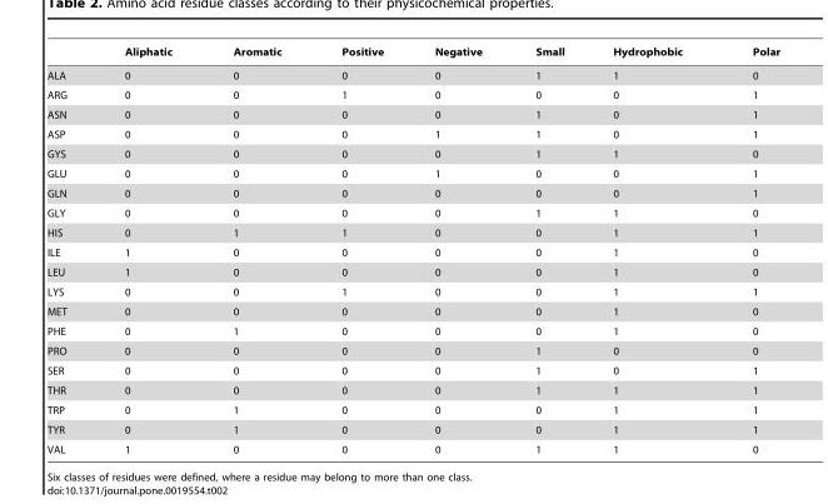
<table><thead><tr><td></td><td>Aliphatic</td><td>Aromatic</td><td>Positive</td><td>Negative</td><td>Small</td><td>Hydrophobic</td><td>Polar</td></tr></thead><tbody><tr><td>ALA</td><td>0</td><td>0</td><td>0</td><td>0</td><td>1</td><td>1</td><td>0</td></tr><tr><td>ARG</td><td>0</td><td>0</td><td>1</td><td>0</td><td>0</td><td>0</td><td>1</td></tr><tr><td>ASN</td><td>0</td><td>0</td><td>0</td><td>0</td><td>1</td><td>0</td><td>1</td></tr><tr><td>ASP</td><td>0</td><td>0</td><td>0</td><td>1</td><td>1</td><td>0</td><td>1</td></tr><tr><td>GYS</td><td>0</td><td>0</td><td>0</td><td>0</td><td>1</td><td>1</td><td>0</td></tr><tr><td>GLU</td><td>0</td><td>0</td><td>0</td><td>1</td><td>0</td><td>0</td><td>1</td></tr><tr><td>GLN</td><td>0</td><td>0</td><td>0</td><td>0</td><td>0</td><td>0</td><td>1</td></tr><tr><td>GLY</td><td>0</td><td>0</td><td>0</td><td>0</td><td>1</td><td>1</td><td>0</td></tr><tr><td>HIS</td><td>0</td><td>1</td><td>1</td><td>0</td><td>0</td><td>1</td><td>1</td></tr><tr><td>ILE</td><td>1</td><td>0</td><td>0</td><td>0</td><td>0</td><td>1</td><td>0</td></tr><tr><td>LEU</td><td>1</td><td>0</td><td>0</td><td>0</td><td>0</td><td>1</td><td>0</td></tr><tr><td>LYS</td><td>0</td><td>0</td><td>1</td><td>0</td><td>0</td><td>1</td><td>1</td></tr><tr><td>MET</td><td>0</td><td>0</td><td>0</td><td>0</td><td>0</td><td>1</td><td>0</td></tr><tr><td>PHE</td><td>0</td><td>1</td><td>0</td><td>0</td><td>0</td><td>1</td><td>0</td></tr><tr><td>PRO</td><td>0</td><td>0</td><td>0</td><td>0</td><td>1</td><td>0</td><td>0</td></tr><tr><td>SER</td><td>0</td><td>0</td><td>0</td><td>0</td><td>1</td><td>0</td><td>1</td></tr><tr><td>THR</td><td>0</td><td>0</td><td>0</td><td>0</td><td>1</td><td>1</td><td>1</td></tr><tr><td>TRP</td><td>0</td><td>1</td><td>0</td><td>0</td><td>0</td><td>1</td><td>1</td></tr><tr><td>TYR</td><td>0</td><td>1</td><td>0</td><td>0</td><td>0</td><td>1</td><td>1</td></tr><tr><td>VAL</td><td>1</td><td>0</td><td>0</td><td>0</td><td>1</td><td>1</td><td>0</td></tr></tbody></table>